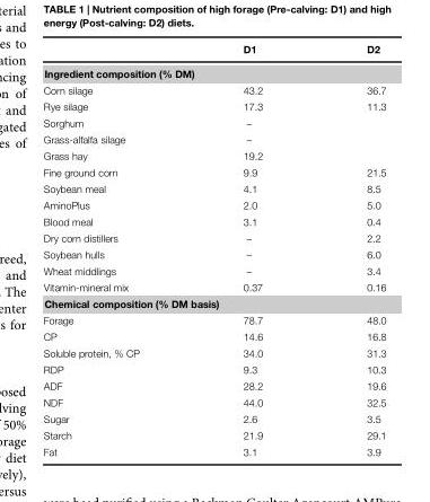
<table><thead><tr><td></td><td>D1</td><td>D2</td></tr></thead><tbody><tr><td colspan="3">Ingredient composition (% DM)</td></tr><tr><td>Corn silage</td><td>43.2</td><td>36.7</td></tr><tr><td>Rye silage</td><td>17.3</td><td>11.3</td></tr><tr><td>Sorghum</td><td>–</td><td></td></tr><tr><td>Grass-alfalfa silage</td><td>–</td><td></td></tr><tr><td>Grass hay</td><td>19.2</td><td></td></tr><tr><td>Fine ground corn</td><td>9.9</td><td>21.5</td></tr><tr><td>Soybean meal</td><td>4.1</td><td>8.5</td></tr><tr><td>AminoPlus</td><td>2.0</td><td>5.0</td></tr><tr><td>Blood meal</td><td>3.1</td><td>0.4</td></tr><tr><td>Dry corn distillers</td><td>–</td><td>2.2</td></tr><tr><td>Soybean hulls</td><td>–</td><td>6.0</td></tr><tr><td>Wheat middlings</td><td>–</td><td>3.4</td></tr><tr><td>Vitamin-mineral mix</td><td>0.37</td><td>0.16</td></tr><tr><td colspan="3">Chemical composition (% DM basis)</td></tr><tr><td>Forage</td><td>78.7</td><td>48.0</td></tr><tr><td>CP</td><td>14.6</td><td>16.8</td></tr><tr><td>Soluble protein, % CP</td><td>34.0</td><td>31.3</td></tr><tr><td>RDP</td><td>9.3</td><td>10.3</td></tr><tr><td>ADF</td><td>28.2</td><td>19.6</td></tr><tr><td>NDF</td><td>44.0</td><td>32.5</td></tr><tr><td>Sugar</td><td>2.6</td><td>3.5</td></tr><tr><td>Starch</td><td>21.9</td><td>29.1</td></tr><tr><td>Fat</td><td>3.1</td><td>3.9</td></tr></tbody></table>